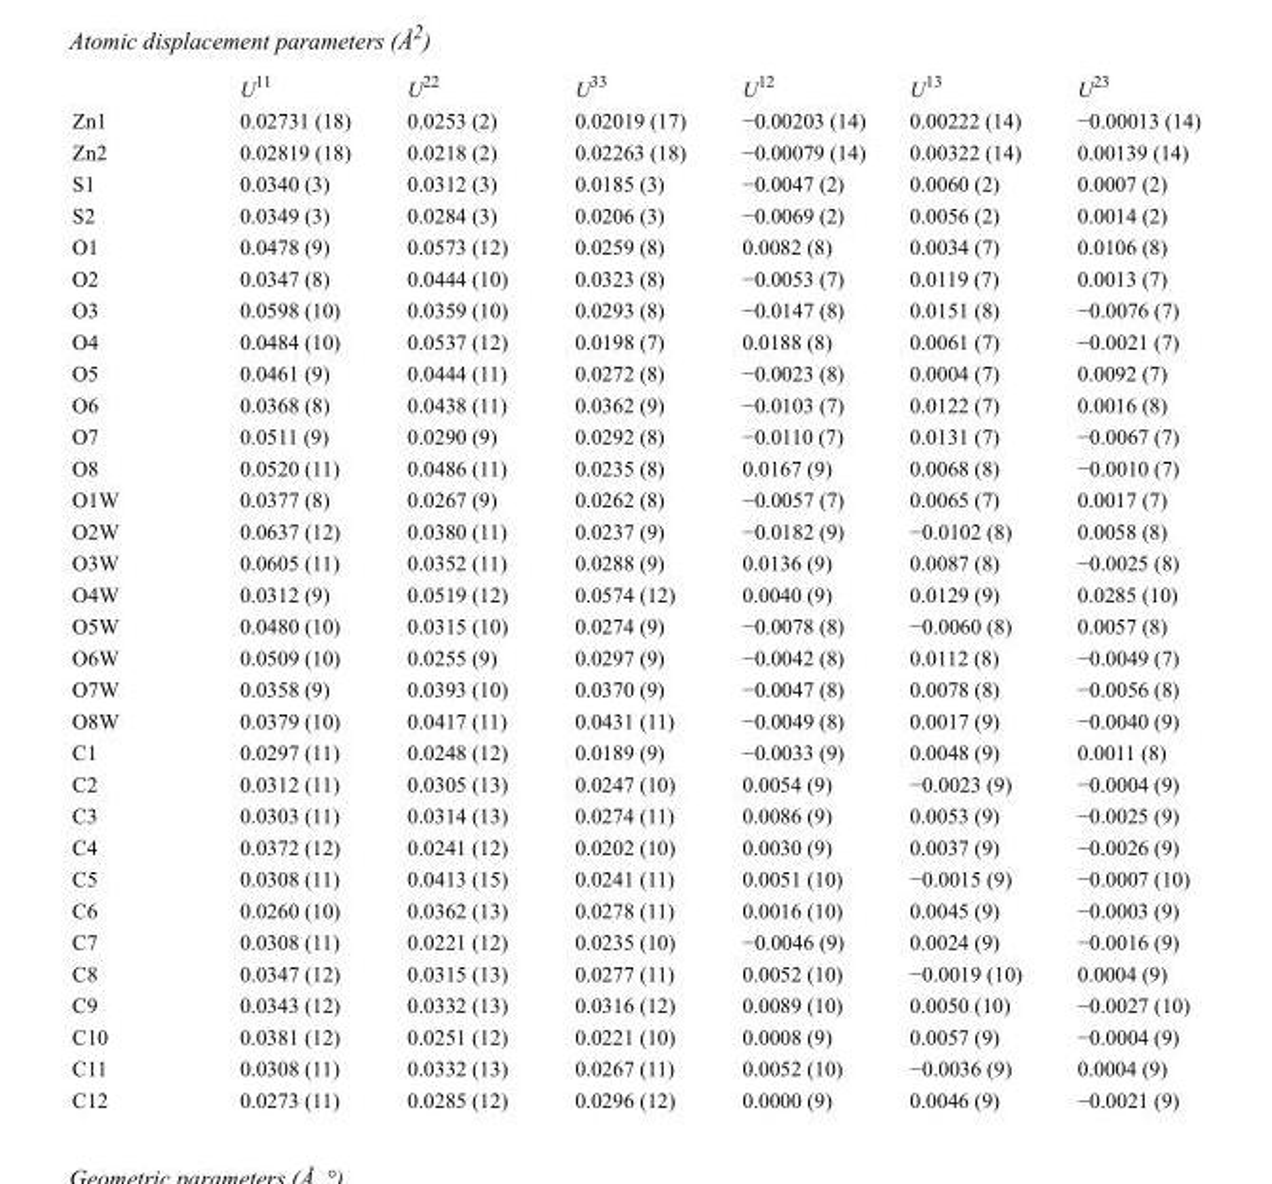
<table><thead><tr><td></td><td>U<sup>11</sup></td><td>U<sup>22</sup></td><td>U<sup>33</sup></td><td>U<sup>12</sup></td><td>U<sup>13</sup></td><td>U<sup>23</sup></td></tr></thead><tbody><tr><td>Zn1</td><td>0.02731 (18)</td><td>0.0253 (2)</td><td>0.02019 (17)</td><td>−0.00203 (14)</td><td>0.00222 (14)</td><td>−0.00013 (14)</td></tr><tr><td>Zn2</td><td>0.02819 (18)</td><td>0.0218 (2)</td><td>0.02263 (18)</td><td>−0.00079 (14)</td><td>0.00322 (14)</td><td>0.00139 (14)</td></tr><tr><td>S1</td><td>0.0340 (3)</td><td>0.0312 (3)</td><td>0.0185 (3)</td><td>−0.0047 (2)</td><td>0.0060 (2)</td><td>0.0007 (2)</td></tr><tr><td>S2</td><td>0.0349 (3)</td><td>0.0284 (3)</td><td>0.0206 (3)</td><td>−0.0069 (2)</td><td>0.0056 (2)</td><td>0.0014 (2)</td></tr><tr><td>O1</td><td>0.0478 (9)</td><td>0.0573 (12)</td><td>0.0259 (8)</td><td>0.0082 (8)</td><td>0.0034 (7)</td><td>0.0106 (8)</td></tr><tr><td>O2</td><td>0.0347 (8)</td><td>0.0444 (10)</td><td>0.0323 (8)</td><td>−0.0053 (7)</td><td>0.0119 (7)</td><td>0.0013 (7)</td></tr><tr><td>O3</td><td>0.0598 (10)</td><td>0.0359 (10)</td><td>0.0293 (8)</td><td>−0.0147 (8)</td><td>0.0151 (8)</td><td>−0.0076 (7)</td></tr><tr><td>O4</td><td>0.0484 (10)</td><td>0.0537 (12)</td><td>0.0198 (7)</td><td>0.0188 (8)</td><td>0.0061 (7)</td><td>−0.0021 (7)</td></tr><tr><td>O5</td><td>0.0461 (9)</td><td>0.0444 (11)</td><td>0.0272 (8)</td><td>−0.0023 (8)</td><td>0.0004 (7)</td><td>0.0092 (7)</td></tr><tr><td>O6</td><td>0.0368 (8)</td><td>0.0438 (11)</td><td>0.0362 (9)</td><td>−0.0103 (7)</td><td>0.0122 (7)</td><td>0.0016 (8)</td></tr><tr><td>O7</td><td>0.0511 (9)</td><td>0.0290 (9)</td><td>0.0292 (8)</td><td>−0.0110 (7)</td><td>0.0131 (7)</td><td>−0.0067 (7)</td></tr><tr><td>O8</td><td>0.0520 (11)</td><td>0.0486 (11)</td><td>0.0235 (8)</td><td>0.0167 (9)</td><td>0.0068 (8)</td><td>−0.0010 (7)</td></tr><tr><td>O1W</td><td>0.0377 (8)</td><td>0.0267 (9)</td><td>0.0262 (8)</td><td>−0.0057 (7)</td><td>0.0065 (7)</td><td>0.0017 (7)</td></tr><tr><td>O2W</td><td>0.0637 (12)</td><td>0.0380 (11)</td><td>0.0237 (9)</td><td>−0.0182 (9)</td><td>−0.0102 (8)</td><td>0.0058 (8)</td></tr><tr><td>O3W</td><td>0.0605 (11)</td><td>0.0352 (11)</td><td>0.0288 (9)</td><td>0.0136 (9)</td><td>0.0087 (8)</td><td>−0.0025 (8)</td></tr><tr><td>O4W</td><td>0.0312 (9)</td><td>0.0519 (12)</td><td>0.0574 (12)</td><td>0.0040 (9)</td><td>0.0129 (9)</td><td>0.0285 (10)</td></tr><tr><td>O5W</td><td>0.0480 (10)</td><td>0.0315 (10)</td><td>0.0274 (9)</td><td>−0.0078 (8)</td><td>−0.0060 (8)</td><td>0.0057 (8)</td></tr><tr><td>O6W</td><td>0.0509 (10)</td><td>0.0255 (9)</td><td>0.0297 (9)</td><td>−0.0042 (8)</td><td>0.0112 (8)</td><td>−0.0049 (7)</td></tr><tr><td>O7W</td><td>0.0358 (9)</td><td>0.0393 (10)</td><td>0.0370 (9)</td><td>−0.0047 (8)</td><td>0.0078 (8)</td><td>−0.0056 (8)</td></tr><tr><td>O8W</td><td>0.0379 (10)</td><td>0.0417 (11)</td><td>0.0431 (11)</td><td>−0.0049 (8)</td><td>0.0017 (9)</td><td>−0.0040 (9)</td></tr><tr><td>C1</td><td>0.0297 (11)</td><td>0.0248 (12)</td><td>0.0189 (9)</td><td>−0.0033 (9)</td><td>0.0048 (9)</td><td>0.0011 (8)</td></tr><tr><td>C2</td><td>0.0312 (11)</td><td>0.0305 (13)</td><td>0.0247 (10)</td><td>0.0054 (9)</td><td>−0.0023 (9)</td><td>−0.0004 (9)</td></tr><tr><td>C3</td><td>0.0303 (11)</td><td>0.0314 (13)</td><td>0.0274 (11)</td><td>0.0086 (9)</td><td>0.0053 (9)</td><td>−0.0025 (9)</td></tr><tr><td>C4</td><td>0.0372 (12)</td><td>0.0241 (12)</td><td>0.0202 (10)</td><td>0.0030 (9)</td><td>0.0037 (9)</td><td>−0.0026 (9)</td></tr><tr><td>C5</td><td>0.0308 (11)</td><td>0.0413 (15)</td><td>0.0241 (11)</td><td>0.0051 (10)</td><td>−0.0015 (9)</td><td>−0.0007 (10)</td></tr><tr><td>C6</td><td>0.0260 (10)</td><td>0.0362 (13)</td><td>0.0278 (11)</td><td>0.0016 (10)</td><td>0.0045 (9)</td><td>−0.0003 (9)</td></tr><tr><td>C7</td><td>0.0308 (11)</td><td>0.0221 (12)</td><td>0.0235 (10)</td><td>−0.0046 (9)</td><td>0.0024 (9)</td><td>−0.0016 (9)</td></tr><tr><td>C8</td><td>0.0347 (12)</td><td>0.0315 (13)</td><td>0.0277 (11)</td><td>0.0052 (10)</td><td>−0.0019 (10)</td><td>0.0004 (9)</td></tr><tr><td>C9</td><td>0.0343 (12)</td><td>0.0332 (13)</td><td>0.0316 (12)</td><td>0.0089 (10)</td><td>0.0050 (10)</td><td>−0.0027 (10)</td></tr><tr><td>C10</td><td>0.0381 (12)</td><td>0.0251 (12)</td><td>0.0221 (10)</td><td>0.0008 (9)</td><td>0.0057 (9)</td><td>−0.0004 (9)</td></tr><tr><td>C11</td><td>0.0308 (11)</td><td>0.0332 (13)</td><td>0.0267 (11)</td><td>0.0052 (10)</td><td>−0.0036 (9)</td><td>0.0004 (9)</td></tr><tr><td>C12</td><td>0.0273 (11)</td><td>0.0285 (12)</td><td>0.0296 (12)</td><td>0.0000 (9)</td><td>0.0046 (9)</td><td>−0.0021 (9)</td></tr></tbody></table>